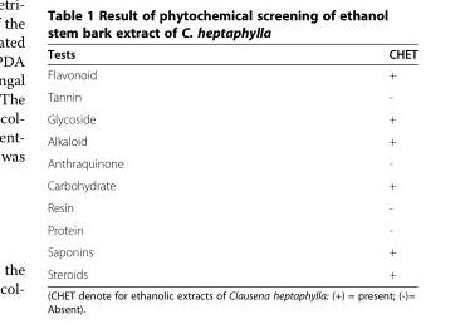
<table><thead><tr><td>Tests</td><td>CHET</td></tr></thead><tbody><tr><td>Flavonoid</td><td>+</td></tr><tr><td>Tannin</td><td>-</td></tr><tr><td>Glycoside</td><td>+</td></tr><tr><td>Alkaloid</td><td>+</td></tr><tr><td>Anthraquinone</td><td>-</td></tr><tr><td>Carbohydrate</td><td>+</td></tr><tr><td>Resin</td><td>-</td></tr><tr><td>Protein</td><td>-</td></tr><tr><td>Saponins</td><td>+</td></tr><tr><td>Steroids</td><td>+</td></tr></tbody></table>